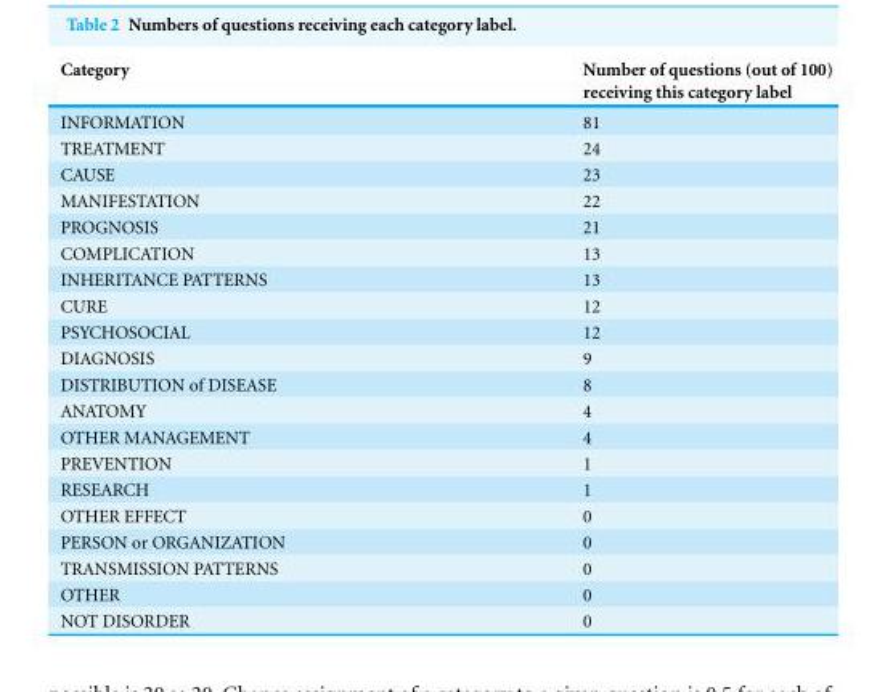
<table><thead><tr><td>Category</td><td>Number of questions (out of 100) receiving this category label</td></tr></thead><tbody><tr><td>INFORMATION</td><td>81</td></tr><tr><td>TREATMENT</td><td>24</td></tr><tr><td>CAUSE</td><td>23</td></tr><tr><td>MANIFESTATION</td><td>22</td></tr><tr><td>PROGNOSIS</td><td>21</td></tr><tr><td>COMPLICATION</td><td>13</td></tr><tr><td>INHERITANCE PATTERNS</td><td>13</td></tr><tr><td>CURE</td><td>12</td></tr><tr><td>PSYCHOSOCIAL</td><td>12</td></tr><tr><td>DIAGNOSIS</td><td>9</td></tr><tr><td>DISTRIBUTION of DISEASE</td><td>8</td></tr><tr><td>ANATOMY</td><td>4</td></tr><tr><td>OTHER MANAGEMENT</td><td>4</td></tr><tr><td>PREVENTION</td><td>1</td></tr><tr><td>RESEARCH</td><td>1</td></tr><tr><td>OTHER EFFECT</td><td>0</td></tr><tr><td>PERSON or ORGANIZATION</td><td>0</td></tr><tr><td>TRANSMISSION PATTERNS</td><td>0</td></tr><tr><td>OTHER</td><td>0</td></tr><tr><td>NOT DISORDER</td><td>0</td></tr></tbody></table>